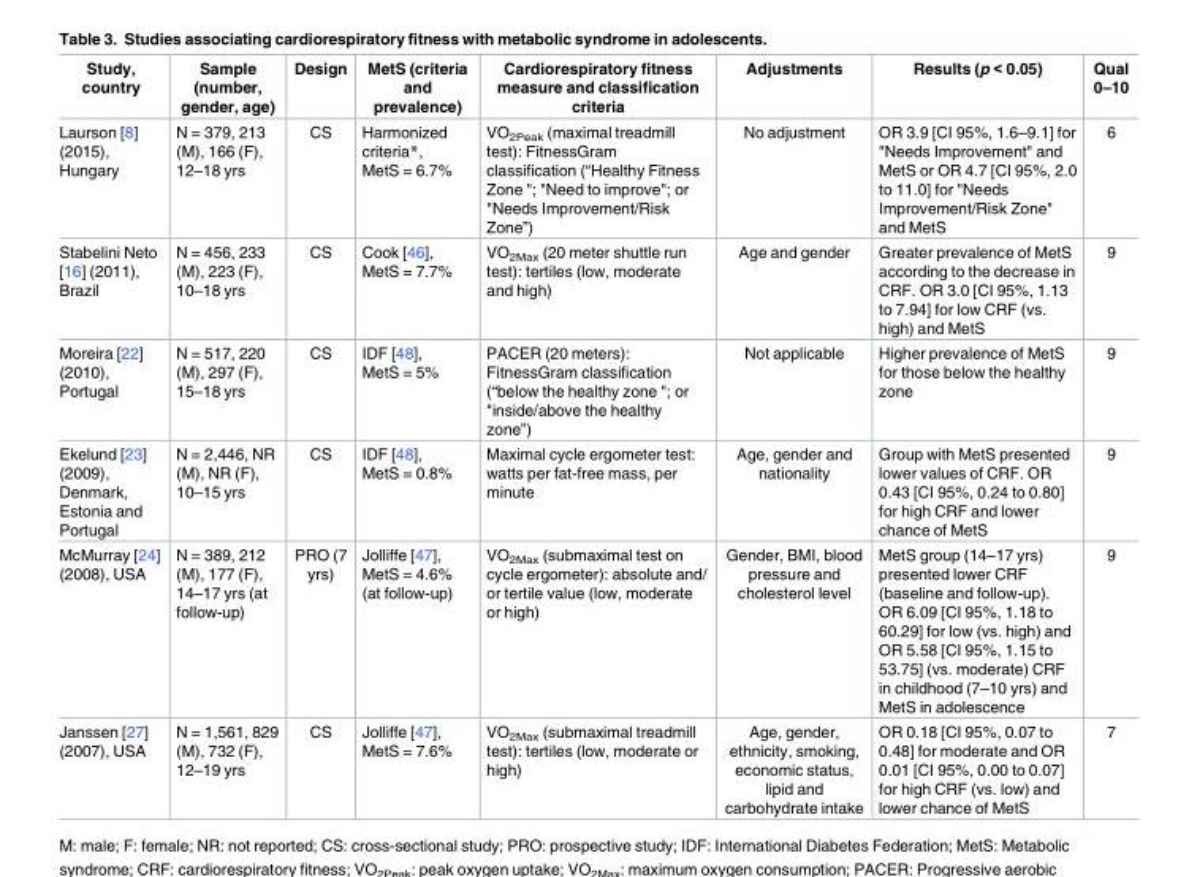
<table><thead><tr><td>Study, country</td><td>Sample (number, gender, age)</td><td>Design</td><td>MetS (criteria and prevalence)</td><td>Cardiorespiratory fitness measure and classification criteria</td><td>Adjustments</td><td>Results (p &lt; 0.05)</td><td>Qual 0–10</td></tr></thead><tbody><tr><td>Laurson [8] (2015), Hungary</td><td>N = 379, 213 (M), 166 (F), 12–18 yrs</td><td>CS</td><td>Harmonized criteria*, MetS = 6.7%</td><td>VO<sub>2Peak</sub> (maximal treadmill test): FitnessGram classification (“Healthy Fitness Zone &quot;; &quot;Need to improve&quot;; or &quot;Needs Improvement/Risk Zone”)</td><td>No adjustment</td><td>OR 3.9 [CI 95%, 1.6–9.1] for &quot;Needs Improvement&quot; and MetS or OR 4.7 [CI 95%, 2.0 to 11.0] for &quot;Needs Improvement/Risk Zone&quot; and MetS</td><td>6</td></tr><tr><td>Stabelini Neto [16] (2011), Brazil</td><td>N = 456, 233 (M), 223 (F), 10–18 yrs</td><td>CS</td><td>Cook [46], MetS = 7.7%</td><td>VO<sub>2Max</sub> (20 meter shuttle run test): tertiles (low, moderate and high)</td><td>Age and gender</td><td>Greater prevalence of MetS according to the decrease in CRF. OR 3.0 [CI 95%, 1.13 to 7.94] for low CRF (vs. high) and MetS</td><td>9</td></tr><tr><td>Moreira [22] (2010), Portugal</td><td>N = 517, 220 (M), 297 (F), 15–18 yrs</td><td>CS</td><td>IDF [48], MetS = 5%</td><td>PACER (20 meters): FitnessGram classification (“below the healthy zone &quot;; or &quot;inside/above the healthy zone”)</td><td>Not applicable</td><td>Higher prevalence of MetS for those below the healthy zone</td><td>9</td></tr><tr><td>Ekelund [23] (2009), Denmark, Estonia and Portugal</td><td>N = 2,446, NR (M), NR (F), 10–15 yrs</td><td>CS</td><td>IDF [48], MetS = 0.8%</td><td>Maximal cycle ergometer test: watts per fat-free mass, per minute</td><td>Age, gender and nationality</td><td>Group with MetS presented lower values of CRF. OR 0.43 [CI 95%, 0.24 to 0.80] for high CRF and lower chance of MetS</td><td>9</td></tr><tr><td>McMurray [24] (2008), USA</td><td>N = 389, 212 (M), 177 (F), 14–17 yrs (at follow-up)</td><td>PRO (7 yrs)</td><td>Jolliffe [47], MetS = 4.6% (at follow-up)</td><td>VO<sub>2Max</sub> (submaximal test on cycle ergometer): absolute and/ or tertile value (low, moderate or high)</td><td>Gender, BMI, blood pressure and cholesterol level</td><td>MetS group (14–17 yrs) presented lower CRF (baseline and follow-up). OR 6.09 [CI 95%, 1.18 to 60.29] for low (vs. high) and OR 5.58 [CI 95%, 1.15 to 53.75] (vs. moderate) CRF in childhood (7–10 yrs) and MetS in adolescence</td><td>9</td></tr><tr><td>Janssen [27] (2007), USA</td><td>N = 1,561, 829 (M), 732 (F), 12–19 yrs</td><td>CS</td><td>Jolliffe [47], MetS = 7.6%</td><td>VO<sub>2Max</sub> (submaximal treadmill test): tertiles (low, moderate or high)</td><td>Age, gender, ethnicity, smoking, economic status, lipid and carbohydrate intake</td><td>OR 0.18 [CI 95%, 0.07 to 0.48] for moderate and OR 0.01 [CI 95%, 0.00 to 0.07] for high CRF (vs. low) and lower chance of MetS</td><td>7</td></tr></tbody></table>